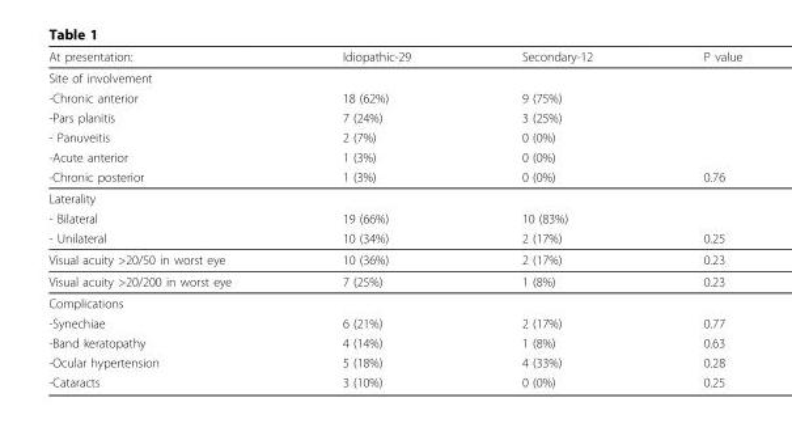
<table><thead><tr><td>At presentation:</td><td>Idiopathic-29</td><td>Secondary-12</td><td>P value</td></tr></thead><tbody><tr><td colspan="4">Site of involvement</td></tr><tr><td>-Chronic anterior</td><td>18 (62%)</td><td>9 (75%)</td><td></td></tr><tr><td>-Pars planitis</td><td>7 (24%)</td><td>3 (25%)</td><td></td></tr><tr><td>- Panuveitis</td><td>2 (7%)</td><td>0 (0%)</td><td></td></tr><tr><td>-Acute anterior</td><td>1 (3%)</td><td>0 (0%)</td><td></td></tr><tr><td>-Chronic posterior</td><td>1 (3%)</td><td>0 (0%)</td><td>0.76</td></tr><tr><td colspan="4">Laterality</td></tr><tr><td>- Bilateral</td><td>19 (66%)</td><td>10 (83%)</td><td></td></tr><tr><td>- Unilateral</td><td>10 (34%)</td><td>2 (17%)</td><td>0.25</td></tr><tr><td>Visual acuity &gt;20/50 in worst eye</td><td>10 (36%)</td><td>2 (17%)</td><td>0.23</td></tr><tr><td>Visual acuity &gt;20/200 in worst eye</td><td>7 (25%)</td><td>1 (8%)</td><td>0.23</td></tr><tr><td colspan="4">Complications</td></tr><tr><td>-Synechiae</td><td>6 (21%)</td><td>2 (17%)</td><td>0.77</td></tr><tr><td>-Band keratopathy</td><td>4 (14%)</td><td>1 (8%)</td><td>0.63</td></tr><tr><td>-Ocular hypertension</td><td>5 (18%)</td><td>4 (33%)</td><td>0.28</td></tr><tr><td>-Cataracts</td><td>3 (10%)</td><td>0 (0%)</td><td>0.25</td></tr></tbody></table>